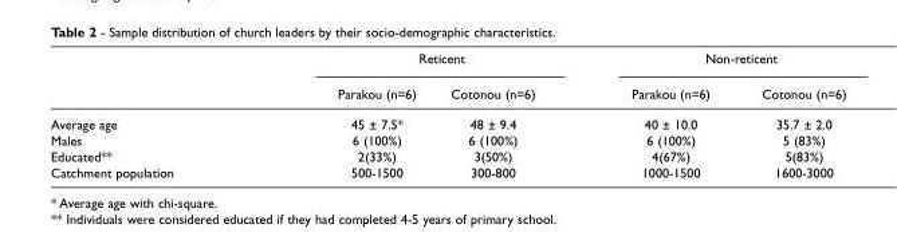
<table><thead><tr><td rowspan="2"></td><td colspan="2">Reticent</td><td colspan="2">Non-reticent</td></tr><tr><td>Parakou (n=6)</td><td>Cotonou (n=6)</td><td>Parakou (n=6)</td><td>Cotonou (n=6)</td></tr></thead><tbody><tr><td>Average age</td><td>45 ± 7.5*</td><td>48 ± 9.4</td><td>40 ± 10.0</td><td>35.7 ± 2.0</td></tr><tr><td>Males</td><td>6 (100%)</td><td>6 (100%)</td><td>6 (100%)</td><td>5 (83%)</td></tr><tr><td>Educated**</td><td>2(33%)</td><td>3(50%)</td><td>4(67%)</td><td>5(83%)</td></tr><tr><td>Catchment population</td><td>500-1500</td><td>300-800</td><td>1000-1500</td><td>1600-3000</td></tr></tbody></table>